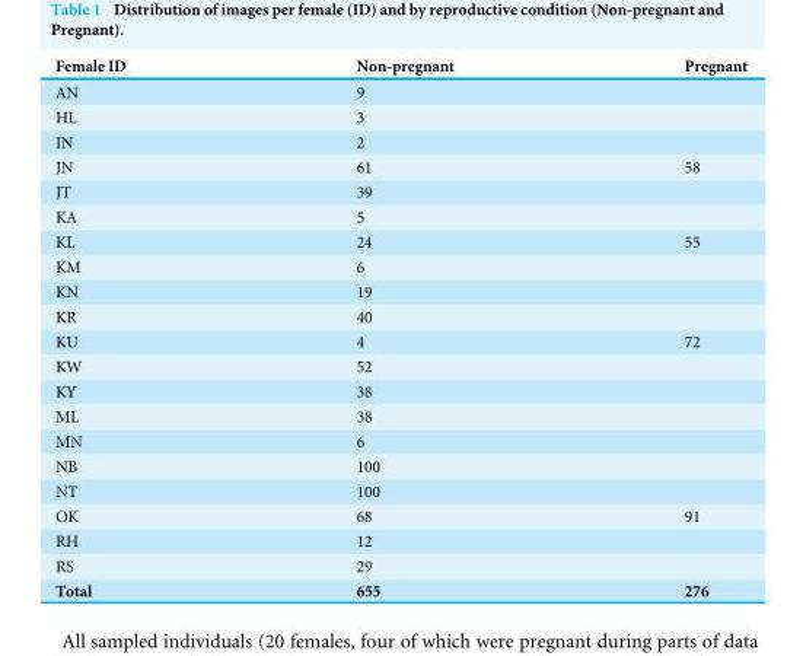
<table><thead><tr><td>Female ID</td><td>Non-pregnant</td><td>Pregnant</td></tr></thead><tbody><tr><td>AN</td><td>9</td><td></td></tr><tr><td>HL</td><td>3</td><td></td></tr><tr><td>IN</td><td>2</td><td></td></tr><tr><td>JN</td><td>61</td><td>58</td></tr><tr><td>JT</td><td>39</td><td></td></tr><tr><td>KA</td><td>5</td><td></td></tr><tr><td>KL</td><td>24</td><td>55</td></tr><tr><td>KM</td><td>6</td><td></td></tr><tr><td>KN</td><td>19</td><td></td></tr><tr><td>KR</td><td>40</td><td></td></tr><tr><td>KU</td><td>4</td><td>72</td></tr><tr><td>KW</td><td>52</td><td></td></tr><tr><td>KY</td><td>38</td><td></td></tr><tr><td>ML</td><td>38</td><td></td></tr><tr><td>MN</td><td>6</td><td></td></tr><tr><td>NB</td><td>100</td><td></td></tr><tr><td>NT</td><td>100</td><td></td></tr><tr><td>OK</td><td>68</td><td>91</td></tr><tr><td>RH</td><td>12</td><td></td></tr><tr><td>RS</td><td>29</td><td></td></tr><tr><td>Total</td><td>655</td><td>276</td></tr></tbody></table>